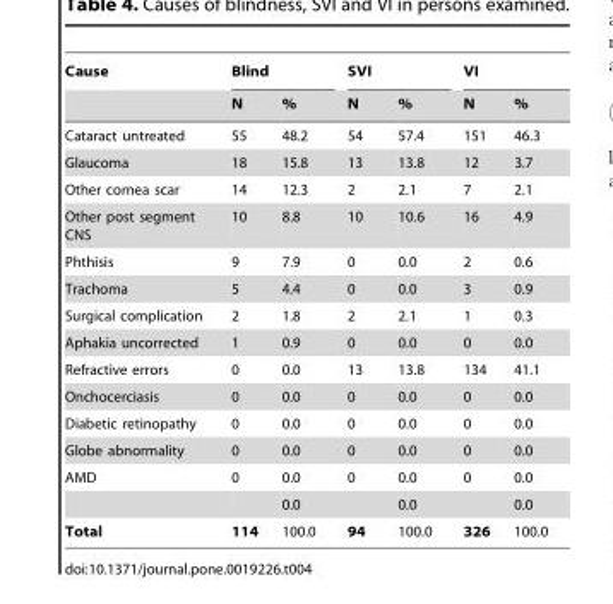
<table><thead><tr><td rowspan="2">Cause</td><td colspan="2">Blind</td><td colspan="2">SVI</td><td colspan="2">VI</td></tr><tr><td>N</td><td>%</td><td>N</td><td>%</td><td>N</td><td>%</td></tr></thead><tbody><tr><td>Cataract untreated</td><td>55</td><td>48.2</td><td>54</td><td>57.4</td><td>151</td><td>46.3</td></tr><tr><td>Glaucoma</td><td>18</td><td>15.8</td><td>13</td><td>13.8</td><td>12</td><td>3.7</td></tr><tr><td>Other cornea scar</td><td>14</td><td>12.3</td><td>2</td><td>2.1</td><td>7</td><td>2.1</td></tr><tr><td>Other post segment CNS</td><td>10</td><td>8.8</td><td>10</td><td>10.6</td><td>16</td><td>4.9</td></tr><tr><td>Phthisis</td><td>9</td><td>7.9</td><td>0</td><td>0.0</td><td>2</td><td>0.6</td></tr><tr><td>Trachoma</td><td>5</td><td>4.4</td><td>0</td><td>0.0</td><td>3</td><td>0.9</td></tr><tr><td>Surgical complication</td><td>2</td><td>1.8</td><td>2</td><td>2.1</td><td>1</td><td>0.3</td></tr><tr><td>Aphakia uncorrected</td><td>1</td><td>0.9</td><td>0</td><td>0.0</td><td>0</td><td>0.0</td></tr><tr><td>Refractive errors</td><td>0</td><td>0.0</td><td>13</td><td>13.8</td><td>134</td><td>41.1</td></tr><tr><td>Onchocerciasis</td><td>0</td><td>0.0</td><td>0</td><td>0.0</td><td>0</td><td>0.0</td></tr><tr><td>Diabetic retinopathy</td><td>0</td><td>0.0</td><td>0</td><td>0.0</td><td>0</td><td>0.0</td></tr><tr><td>Globe abnormality</td><td>0</td><td>0.0</td><td>0</td><td>0.0</td><td>0</td><td>0.0</td></tr><tr><td rowspan="2">AMD</td><td>0</td><td>0.0</td><td>0</td><td>0.0</td><td>0</td><td>0.0</td></tr><tr><td></td><td>0.0</td><td></td><td>0.0</td><td></td><td>0.0</td></tr><tr><td>Total</td><td>114</td><td>100.0</td><td>94</td><td>100.0</td><td>326</td><td>100.0</td></tr></tbody></table>